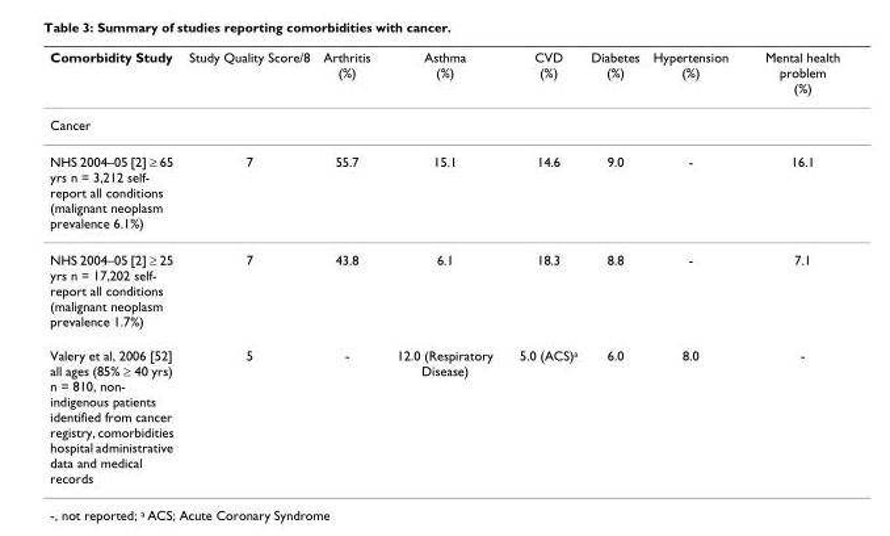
<table><thead><tr><td>Comorbidity Study</td><td>Study Quality Score/8</td><td>Arthritis (%)</td><td>Asthma (%)</td><td>CVD (%)</td><td>Diabetes (%)</td><td>Hypertension (%)</td><td>Mental health problem (%)</td></tr></thead><tbody><tr><td colspan="8">Cancer</td></tr><tr><td>NHS 2004–05 [2] ≥ 65 yrs n = 3,212 self- report all conditions (malignant neoplasm prevalence 6.1%)</td><td>7</td><td>55.7</td><td>15.1</td><td>14.6</td><td>9.0</td><td>-</td><td>16.1</td></tr><tr><td>NHS 2004–05 [2] ≥ 25 yrs n = 17,202 self- report all conditions (malignant neoplasm prevalence 1.7%)</td><td>7</td><td>43.8</td><td>6.1</td><td>18.3</td><td>8.8</td><td>-</td><td>7.1</td></tr><tr><td>Valery et al, 2006 [52] all ages (85% ≥ 40 yrs) n = 810, non- indigenous patients identified from cancer registry, comorbidities hospital administrative data and medical records</td><td>5</td><td>-</td><td>12.0 (Respiratory Disease)</td><td>5.0 (ACS)<sup>a</sup></td><td>6.0</td><td>8.0</td><td>-</td></tr></tbody></table>